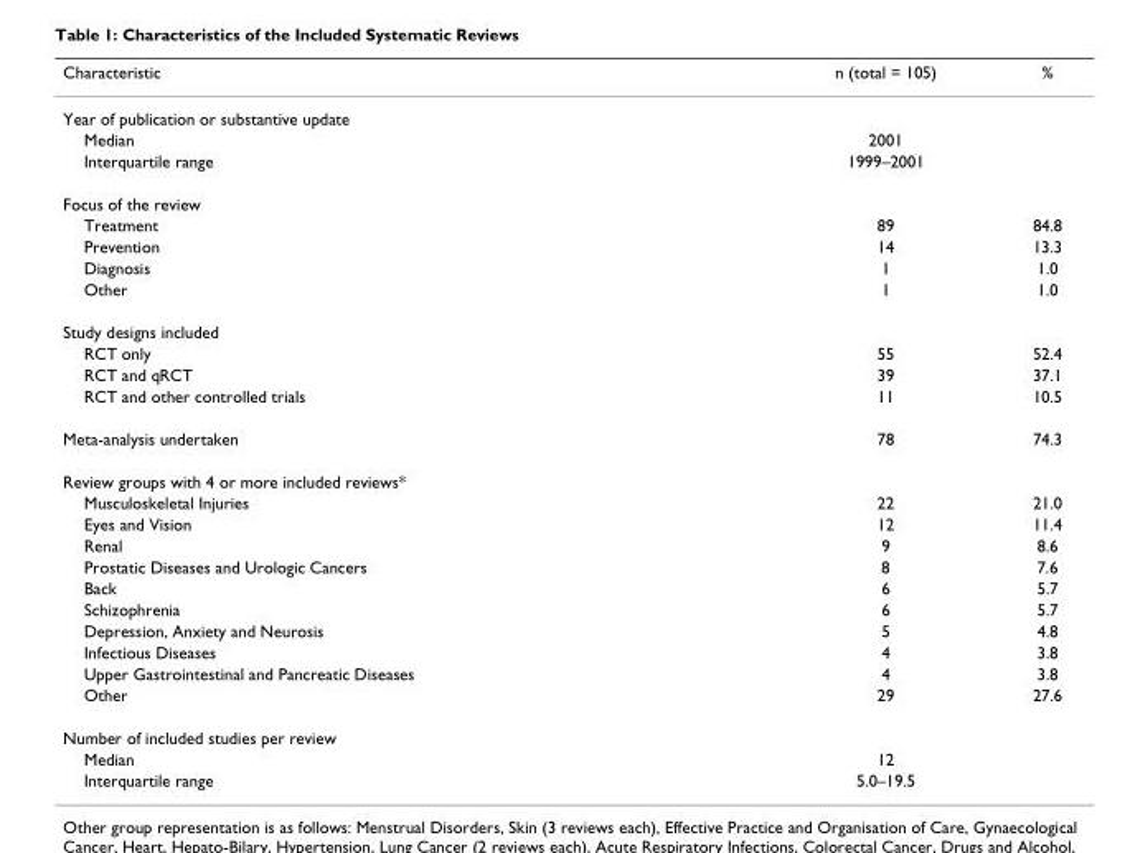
<table><thead><tr><td>Characteristic</td><td>n (total = 105)</td><td>%</td></tr></thead><tbody><tr><td colspan="3">Year of publication or substantive update</td></tr><tr><td>Median</td><td>2001</td><td></td></tr><tr><td>Interquartile range</td><td>1999–2001</td><td></td></tr><tr><td colspan="3">Focus of the review</td></tr><tr><td>Treatment</td><td>89</td><td>84.8</td></tr><tr><td>Prevention</td><td>14</td><td>13.3</td></tr><tr><td>Diagnosis</td><td>1</td><td>1.0</td></tr><tr><td>Other</td><td>1</td><td>1.0</td></tr><tr><td colspan="3">Study designs included</td></tr><tr><td>RCT only</td><td>55</td><td>52.4</td></tr><tr><td>RCT and qRCT</td><td>39</td><td>37.1</td></tr><tr><td>RCT and other controlled trials</td><td>11</td><td>10.5</td></tr><tr><td>Meta-analysis undertaken</td><td>78</td><td>74.3</td></tr><tr><td colspan="3">Review groups with 4 or more included reviews*</td></tr><tr><td>Musculoskeletal Injuries</td><td>22</td><td>21.0</td></tr><tr><td>Eyes and Vision</td><td>12</td><td>11.4</td></tr><tr><td>Renal</td><td>9</td><td>8.6</td></tr><tr><td>Prostatic Diseases and Urologic Cancers</td><td>8</td><td>7.6</td></tr><tr><td>Back</td><td>6</td><td>5.7</td></tr><tr><td>Schizophrenia</td><td>6</td><td>5.7</td></tr><tr><td>Depression, Anxiety and Neurosis</td><td>5</td><td>4.8</td></tr><tr><td>Infectious Diseases</td><td>4</td><td>3.8</td></tr><tr><td>Upper Gastrointestinal and Pancreatic Diseases</td><td>4</td><td>3.8</td></tr><tr><td>Other</td><td>29</td><td>27.6</td></tr><tr><td colspan="3">Number of included studies per review</td></tr><tr><td>Median</td><td>12</td><td></td></tr><tr><td>Interquartile range</td><td>5.0–19.5</td><td></td></tr></tbody></table>